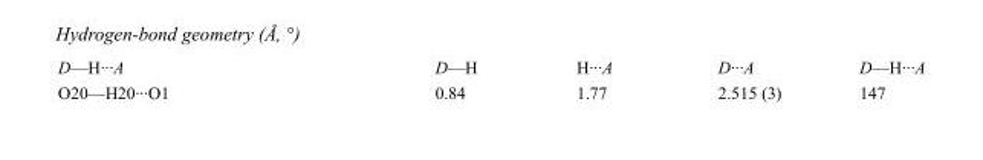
<table><tbody><tr><td>D—H···A</td><td>D—H</td><td>H···A</td><td>D···A</td><td>D—H···A</td></tr><tr><td>O20—H20···O1</td><td>0.84</td><td>1.77</td><td>2.515 (3)</td><td>147</td></tr></tbody></table>